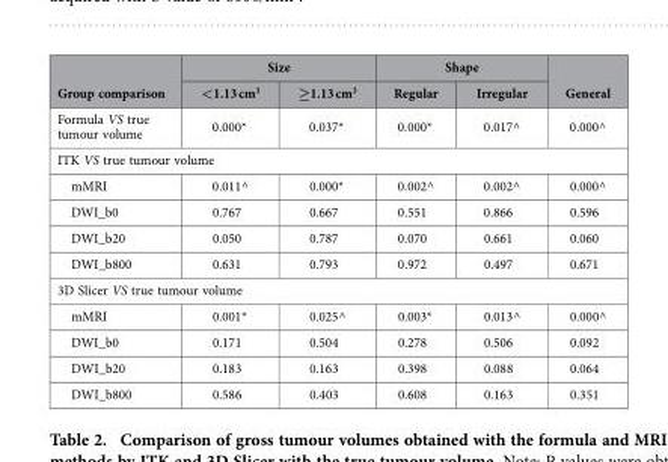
<table><thead><tr><td rowspan="2">Group comparison</td><td colspan="2">Size</td><td colspan="2">Shape</td><td rowspan="2">General</td></tr><tr><td>&lt;1.13 cm<sup>3</sup></td><td>≥1.13 cm<sup>3</sup></td><td>Regular</td><td>Irregular</td></tr></thead><tbody><tr><td>Formula VS true tumour volume</td><td>0.000*</td><td>0.037*</td><td>0.000*</td><td>0.017^</td><td>0.000^</td></tr><tr><td colspan="6">ITK VS true tumour volume</td></tr><tr><td>mMRI</td><td>0.011^</td><td>0.000*</td><td>0.002^</td><td>0.002^</td><td>0.000^</td></tr><tr><td>DWI_b0</td><td>0.767</td><td>0.667</td><td>0.551</td><td>0.866</td><td>0.596</td></tr><tr><td>DWI_b20</td><td>0.050</td><td>0.787</td><td>0.070</td><td>0.661</td><td>0.060</td></tr><tr><td>DWI_b800</td><td>0.631</td><td>0.793</td><td>0.972</td><td>0.497</td><td>0.671</td></tr><tr><td colspan="6">3D Slicer VS true tumour volume</td></tr><tr><td>mMRI</td><td>0.001*</td><td>0.025^</td><td>0.003*</td><td>0.013^</td><td>0.000^</td></tr><tr><td>DWI_b0</td><td>0.171</td><td>0.504</td><td>0.278</td><td>0.506</td><td>0.092</td></tr><tr><td>DWI_b20</td><td>0.183</td><td>0.163</td><td>0.398</td><td>0.088</td><td>0.064</td></tr><tr><td>DWI_b800</td><td>0.586</td><td>0.403</td><td>0.608</td><td>0.163</td><td>0.351</td></tr></tbody></table>